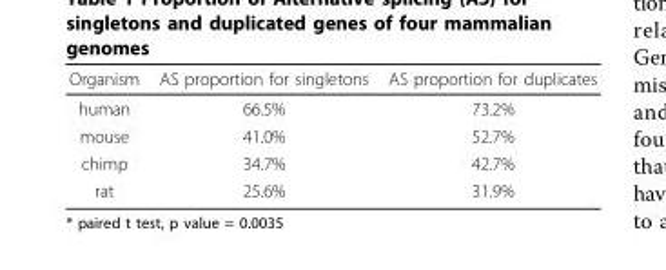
<table><thead><tr><td>Organism</td><td>AS proportion for singletons</td><td>AS proportion for duplicates</td></tr></thead><tbody><tr><td>human</td><td>66.5%</td><td>73.2%</td></tr><tr><td>mouse</td><td>41.0%</td><td>52.7%</td></tr><tr><td>chimp</td><td>34.7%</td><td>42.7%</td></tr><tr><td>rat</td><td>25.6%</td><td>31.9%</td></tr></tbody></table>